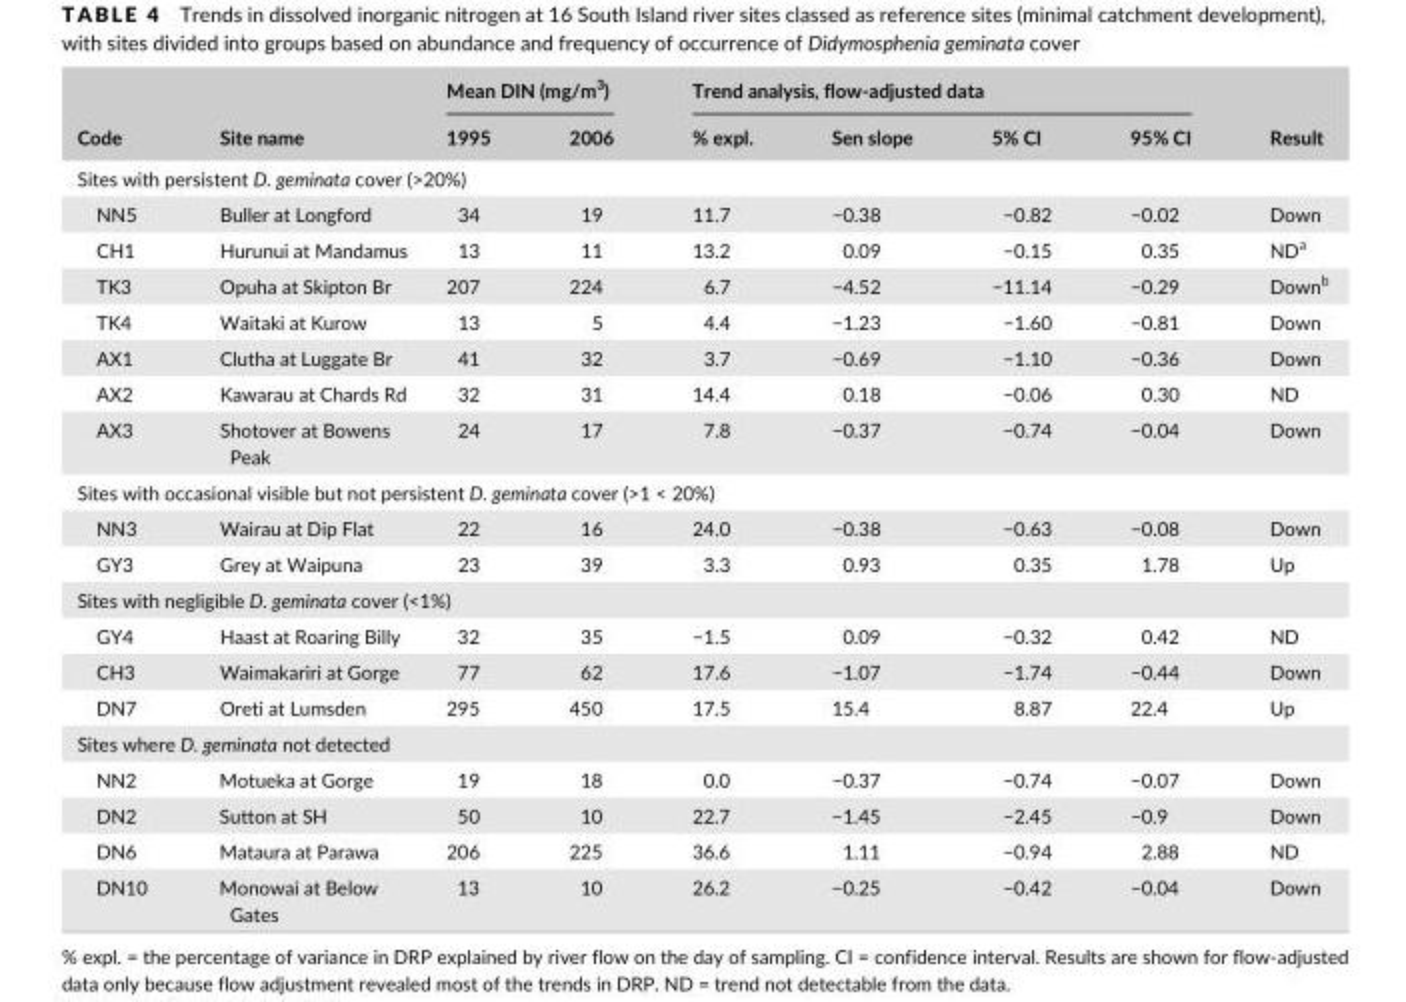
<table><thead><tr><td rowspan="2">Code</td><td rowspan="2">Site name</td><td colspan="2">Mean DIN (mg/m<sup>3</sup>)</td><td colspan="4">Trend analysis, flow- adjusted data</td><td rowspan="2">Result</td></tr><tr><td>1995</td><td>2006</td><td>% expl.</td><td>Sen slope</td><td>5% CI</td><td>95% CI</td></tr></thead><tbody><tr><td colspan="9">Sites with persistent D. geminata cover (&gt;20%)</td></tr><tr><td>NN5</td><td>Buller at Longford</td><td>34</td><td>19</td><td>11.7</td><td>−0.38</td><td>−0.82</td><td>−0.02</td><td>Down</td></tr><tr><td>CH1</td><td>Hurunui at Mandamus</td><td>13</td><td>11</td><td>13.2</td><td>0.09</td><td>−0.15</td><td>0.35</td><td>ND<sup>a</sup></td></tr><tr><td>TK3</td><td>Opuha at Skipton Br</td><td>207</td><td>224</td><td>6.7</td><td>−4.52</td><td>−11.14</td><td>−0.29</td><td>Down<sup>b</sup></td></tr><tr><td>TK4</td><td>Waitaki at Kurow</td><td>13</td><td>5</td><td>4.4</td><td>−1.23</td><td>−1.60</td><td>−0.81</td><td>Down</td></tr><tr><td>AX1</td><td>Clutha at Luggate Br</td><td>41</td><td>32</td><td>3.7</td><td>−0.69</td><td>−1.10</td><td>−0.36</td><td>Down</td></tr><tr><td>AX2</td><td>Kawarau at Chards Rd</td><td>32</td><td>31</td><td>14.4</td><td>0.18</td><td>−0.06</td><td>0.30</td><td>ND</td></tr><tr><td>AX3</td><td>Shotover at Bowens Peak</td><td>24</td><td>17</td><td>7.8</td><td>−0.37</td><td>−0.74</td><td>−0.04</td><td>Down</td></tr><tr><td colspan="9">Sites with occasional visible but not persistent D. geminata cover (&gt;1 &lt; 20%)</td></tr><tr><td>NN3</td><td>Wairau at Dip Flat</td><td>22</td><td>16</td><td>24.0</td><td>−0.38</td><td>−0.63</td><td>−0.08</td><td>Down</td></tr><tr><td>GY3</td><td>Grey at Waipuna</td><td>23</td><td>39</td><td>3.3</td><td>0.93</td><td>0.35</td><td>1.78</td><td>Up</td></tr><tr><td colspan="9">Sites with negligible D. geminata cover (&lt;1%)</td></tr><tr><td>GY4</td><td>Haast at Roaring Billy</td><td>32</td><td>35</td><td>−1.5</td><td>0.09</td><td>−0.32</td><td>0.42</td><td>ND</td></tr><tr><td>CH3</td><td>Waimakariri at Gorge</td><td>77</td><td>62</td><td>17.6</td><td>−1.07</td><td>−1.74</td><td>−0.44</td><td>Down</td></tr><tr><td>DN7</td><td>Oreti at Lumsden</td><td>295</td><td>450</td><td>17.5</td><td>15.4</td><td>8.87</td><td>22.4</td><td>Up</td></tr><tr><td colspan="9">Sites where D. geminata not detected</td></tr><tr><td>NN2</td><td>Motueka at Gorge</td><td>19</td><td>18</td><td>0.0</td><td>−0.37</td><td>−0.74</td><td>−0.07</td><td>Down</td></tr><tr><td>DN2</td><td>Sutton at SH</td><td>50</td><td>10</td><td>22.7</td><td>−1.45</td><td>−2.45</td><td>−0.9</td><td>Down</td></tr><tr><td>DN6</td><td>Mataura at Parawa</td><td>206</td><td>225</td><td>36.6</td><td>1.11</td><td>−0.94</td><td>2.88</td><td>ND</td></tr><tr><td>DN10</td><td>Monowai at Below Gates</td><td>13</td><td>10</td><td>26.2</td><td>−0.25</td><td>−0.42</td><td>−0.04</td><td>Down</td></tr></tbody></table>